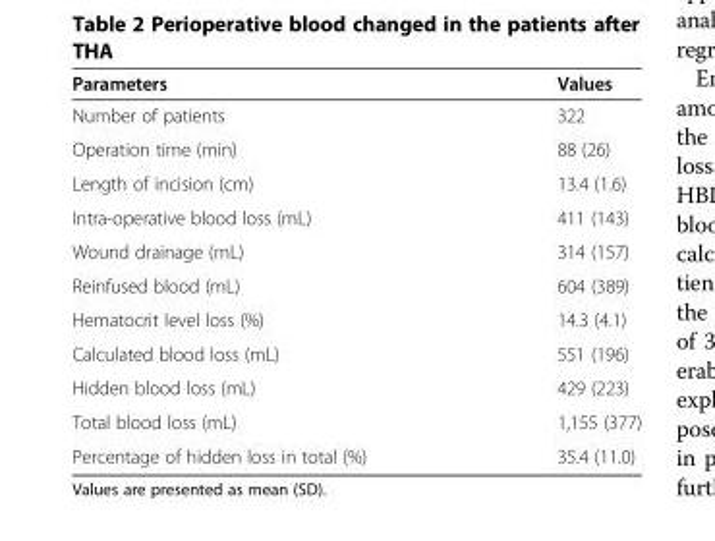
<table><thead><tr><td>Parameters</td><td>Values</td></tr></thead><tbody><tr><td>Number of patients</td><td>322</td></tr><tr><td>Operation time (min)</td><td>88 (26)</td></tr><tr><td>Length of incision (cm)</td><td>13.4 (1.6)</td></tr><tr><td>Intra-operative blood loss (mL)</td><td>411 (143)</td></tr><tr><td>Wound drainage (mL)</td><td>314 (157)</td></tr><tr><td>Reinfused blood (mL)</td><td>604 (389)</td></tr><tr><td>Hematocrit level loss (%)</td><td>14.3 (4.1)</td></tr><tr><td>Calculated blood loss (mL)</td><td>551 (196)</td></tr><tr><td>Hidden blood loss (mL)</td><td>429 (223)</td></tr><tr><td>Total blood loss (mL)</td><td>1,155 (377)</td></tr><tr><td>Percentage of hidden loss in total (%)</td><td>35.4 (11.0)</td></tr></tbody></table>